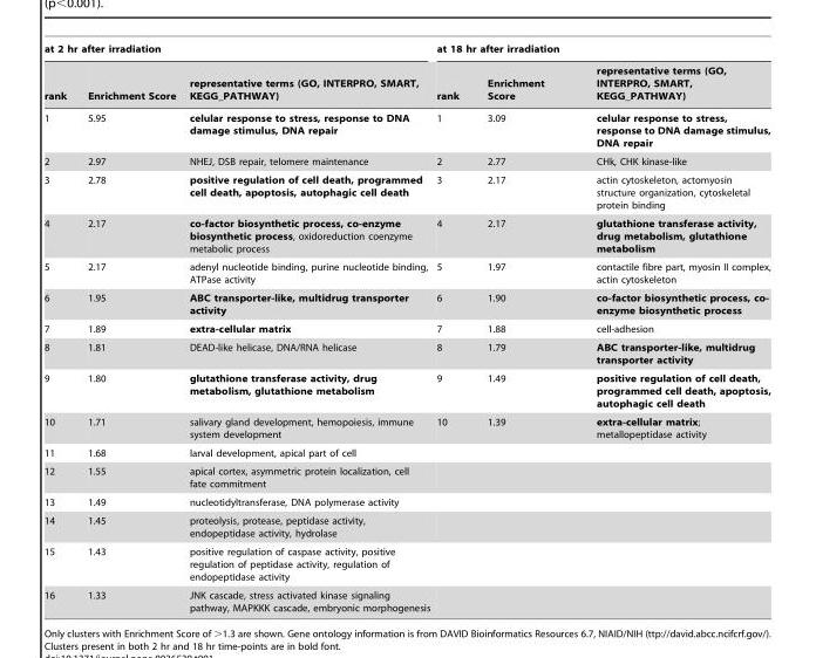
<table><thead><tr><td colspan="3">at 2 hr after irradiation</td><td colspan="3">at 18 hr after irradiation</td></tr><tr><td>rank</td><td>Enrichment Score</td><td>representative terms (GO, INTERPRO, SMART, KEGG_PATHWAY)</td><td>rank</td><td>Enrichment Score</td><td>representative terms (GO, INTERPRO, SMART, KEGG_PATHWAY)</td></tr></thead><tbody><tr><td>1</td><td>5.95</td><td>celular response to stress, response to DNA damage stimulus, DNA repair</td><td>1</td><td>3.09</td><td>celular response to stress, response to DNA damage stimulus, DNA repair</td></tr><tr><td>2</td><td>2.97</td><td>NHEJ, DSB repair, telomere maintenance</td><td>2</td><td>2.77</td><td>CHk, CHK kinase-like</td></tr><tr><td>3</td><td>2.78</td><td>positive regulation of cell death, programmed cell death, apoptosis, autophagic cell death</td><td>3</td><td>2.17</td><td>actin cytoskeleton, actomyosin structure organization, cytoskeletal protein binding</td></tr><tr><td>4</td><td>2.17</td><td>co-factor biosynthetic process, co-enzyme biosynthetic process, oxidoreduction coenzyme metabolic process</td><td>4</td><td>2.17</td><td>glutathione transferase activity, drug metabolism, glutathione metabolism</td></tr><tr><td>5</td><td>2.17</td><td>adenyl nucleotide binding, purine nucleotide binding, ATPase activity</td><td>5</td><td>1.97</td><td>contactile fibre part, myosin II complex, actin cytoskeleton</td></tr><tr><td>6</td><td>1.95</td><td>ABC transporter-like, multidrug transporter activity</td><td>6</td><td>1.90</td><td>co-factor biosynthetic process, co- enzyme biosynthetic process</td></tr><tr><td>7</td><td>1.89</td><td>extra-cellular matrix</td><td>7</td><td>1.88</td><td>cell-adhesion</td></tr><tr><td>8</td><td>1.81</td><td>DEAD-like helicase, DNA/RNA helicase</td><td>8</td><td>1.79</td><td>ABC transporter-like, multidrug transporter activity</td></tr><tr><td>9</td><td>1.80</td><td>glutathione transferase activity, drug metabolism, glutathione metabolism</td><td>9</td><td>1.49</td><td>positive regulation of cell death, programmed cell death, apoptosis, autophagic cell death</td></tr><tr><td>10</td><td>1.71</td><td>salivary gland development, hemopoiesis, immune system development</td><td>10</td><td>1.39</td><td>extra-cellular matrix; metallopeptidase activity</td></tr><tr><td>11</td><td>1.68</td><td>larval development, apical part of cell</td><td></td><td></td><td></td></tr><tr><td>12</td><td>1.55</td><td>apical cortex, asymmetric protein localization, cell fate commitment</td><td></td><td></td><td></td></tr><tr><td>13</td><td>1.49</td><td>nucleotidyltransferase, DNA polymerase activity</td><td></td><td></td><td></td></tr><tr><td>14</td><td>1.45</td><td>proteolysis, protease, peptidase activity, endopeptidase activity, hydrolase</td><td></td><td></td><td></td></tr><tr><td>15</td><td>1.43</td><td>positive regulation of caspase activity, positive regulation of peptidase activity, regulation of endopeptidase activity</td><td></td><td></td><td></td></tr><tr><td>16</td><td>1.33</td><td>JNK cascade, stress activated kinase signaling pathway, MAPKKK cascade, embryonic morphogenesis</td><td></td><td></td><td></td></tr></tbody></table>